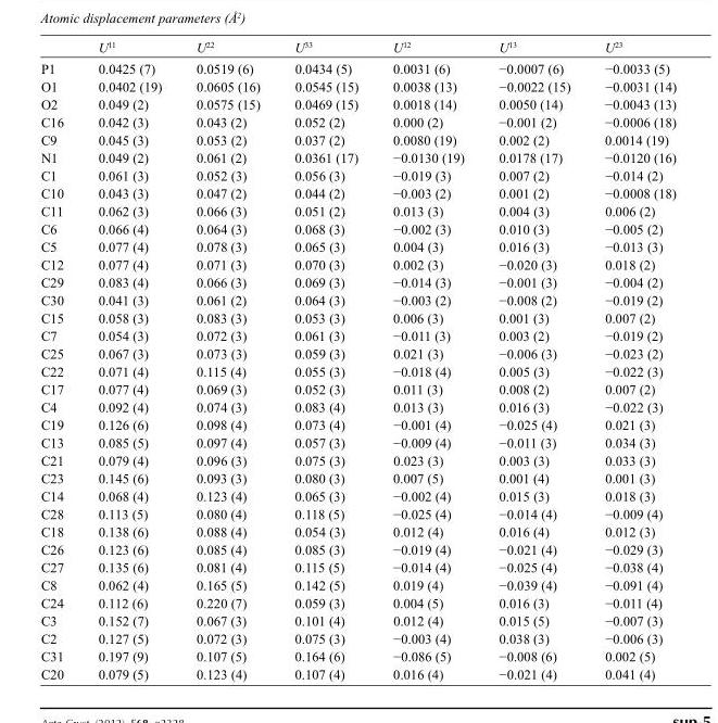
<table><thead><tr><td></td><td>U<sup>11</sup></td><td>U<sup>22</sup></td><td>U<sup>33</sup></td><td>U<sup>12</sup></td><td>U<sup>13</sup></td><td>U<sup>23</sup></td></tr></thead><tbody><tr><td>P1</td><td>0.0425 (7)</td><td>0.0519 (6)</td><td>0.0434 (5)</td><td>0.0031 (6)</td><td>−0.0007 (6)</td><td>−0.0033 (5)</td></tr><tr><td>O1</td><td>0.0402 (19)</td><td>0.0605 (16)</td><td>0.0545 (15)</td><td>0.0038 (13)</td><td>−0.0022 (15)</td><td>−0.0031 (14)</td></tr><tr><td>O2</td><td>0.049 (2)</td><td>0.0575 (15)</td><td>0.0469 (15)</td><td>0.0018 (14)</td><td>0.0050 (14)</td><td>−0.0043 (13)</td></tr><tr><td>C16</td><td>0.042 (3)</td><td>0.043 (2)</td><td>0.052 (2)</td><td>0.000 (2)</td><td>−0.001 (2)</td><td>−0.0006 (18)</td></tr><tr><td>C9</td><td>0.045 (3)</td><td>0.053 (2)</td><td>0.037 (2)</td><td>0.0080 (19)</td><td>0.002 (2)</td><td>0.0014 (19)</td></tr><tr><td>N1</td><td>0.049 (2)</td><td>0.061 (2)</td><td>0.0361 (17)</td><td>−0.0130 (19)</td><td>0.0178 (17)</td><td>−0.0120 (16)</td></tr><tr><td>C1</td><td>0.061 (3)</td><td>0.052 (3)</td><td>0.056 (3)</td><td>−0.019 (3)</td><td>0.007 (2)</td><td>−0.014 (2)</td></tr><tr><td>C10</td><td>0.043 (3)</td><td>0.047 (2)</td><td>0.044 (2)</td><td>−0.003 (2)</td><td>0.001 (2)</td><td>−0.0008 (18)</td></tr><tr><td>C11</td><td>0.062 (3)</td><td>0.066 (3)</td><td>0.051 (2)</td><td>0.013 (3)</td><td>0.004 (3)</td><td>0.006 (2)</td></tr><tr><td>C6</td><td>0.066 (4)</td><td>0.064 (3)</td><td>0.068 (3)</td><td>−0.002 (3)</td><td>0.010 (3)</td><td>−0.005 (2)</td></tr><tr><td>C5</td><td>0.077 (4)</td><td>0.078 (3)</td><td>0.065 (3)</td><td>0.004 (3)</td><td>0.016 (3)</td><td>−0.013 (3)</td></tr><tr><td>C12</td><td>0.077 (4)</td><td>0.071 (3)</td><td>0.070 (3)</td><td>0.002 (3)</td><td>−0.020 (3)</td><td>0.018 (2)</td></tr><tr><td>C29</td><td>0.083 (4)</td><td>0.066 (3)</td><td>0.069 (3)</td><td>−0.014 (3)</td><td>−0.001 (3)</td><td>−0.004 (2)</td></tr><tr><td>C30</td><td>0.041 (3)</td><td>0.061 (2)</td><td>0.064 (3)</td><td>−0.003 (2)</td><td>−0.008 (2)</td><td>−0.019 (2)</td></tr><tr><td>C15</td><td>0.058 (3)</td><td>0.083 (3)</td><td>0.053 (3)</td><td>0.006 (3)</td><td>0.001 (3)</td><td>0.007 (2)</td></tr><tr><td>C7</td><td>0.054 (3)</td><td>0.072 (3)</td><td>0.061 (3)</td><td>−0.011 (3)</td><td>0.003 (2)</td><td>−0.019 (2)</td></tr><tr><td>C25</td><td>0.067 (3)</td><td>0.073 (3)</td><td>0.059 (3)</td><td>0.021 (3)</td><td>−0.006 (3)</td><td>−0.023 (2)</td></tr><tr><td>C22</td><td>0.071 (4)</td><td>0.115 (4)</td><td>0.055 (3)</td><td>−0.018 (4)</td><td>0.005 (3)</td><td>−0.022 (3)</td></tr><tr><td>C17</td><td>0.077 (4)</td><td>0.069 (3)</td><td>0.052 (3)</td><td>0.011 (3)</td><td>0.008 (2)</td><td>0.007 (2)</td></tr><tr><td>C4</td><td>0.092 (4)</td><td>0.074 (3)</td><td>0.083 (4)</td><td>0.013 (3)</td><td>0.016 (3)</td><td>−0.022 (3)</td></tr><tr><td>C19</td><td>0.126 (6)</td><td>0.098 (4)</td><td>0.073 (4)</td><td>−0.001 (4)</td><td>−0.025 (4)</td><td>0.021 (3)</td></tr><tr><td>C13</td><td>0.085 (5)</td><td>0.097 (4)</td><td>0.057 (3)</td><td>−0.009 (4)</td><td>−0.011 (3)</td><td>0.034 (3)</td></tr><tr><td>C21</td><td>0.079 (4)</td><td>0.096 (3)</td><td>0.075 (3)</td><td>0.023 (3)</td><td>0.003 (3)</td><td>0.033 (3)</td></tr><tr><td>C23</td><td>0.145 (6)</td><td>0.093 (3)</td><td>0.080 (3)</td><td>0.007 (5)</td><td>0.001 (4)</td><td>0.001 (3)</td></tr><tr><td>C14</td><td>0.068 (4)</td><td>0.123 (4)</td><td>0.065 (3)</td><td>−0.002 (4)</td><td>0.015 (3)</td><td>0.018 (3)</td></tr><tr><td>C28</td><td>0.113 (5)</td><td>0.080 (4)</td><td>0.118 (5)</td><td>−0.025 (4)</td><td>−0.014 (4)</td><td>−0.009 (4)</td></tr><tr><td>C18</td><td>0.138 (6)</td><td>0.088 (4)</td><td>0.054 (3)</td><td>0.012 (4)</td><td>0.016 (4)</td><td>0.012 (3)</td></tr><tr><td>C26</td><td>0.123 (6)</td><td>0.085 (4)</td><td>0.085 (3)</td><td>−0.019 (4)</td><td>−0.021 (4)</td><td>−0.029 (3)</td></tr><tr><td>C27</td><td>0.135 (6)</td><td>0.081 (4)</td><td>0.115 (5)</td><td>−0.014 (4)</td><td>−0.025 (4)</td><td>−0.038 (4)</td></tr><tr><td>C8</td><td>0.062 (4)</td><td>0.165 (5)</td><td>0.142 (5)</td><td>0.019 (4)</td><td>−0.039 (4)</td><td>−0.091 (4)</td></tr><tr><td>C24</td><td>0.112 (6)</td><td>0.220 (7)</td><td>0.059 (3)</td><td>0.004 (5)</td><td>0.016 (3)</td><td>−0.011 (4)</td></tr><tr><td>C3</td><td>0.152 (7)</td><td>0.067 (3)</td><td>0.101 (4)</td><td>0.012 (4)</td><td>0.015 (5)</td><td>−0.007 (3)</td></tr><tr><td>C2</td><td>0.127 (5)</td><td>0.072 (3)</td><td>0.075 (3)</td><td>−0.003 (4)</td><td>0.038 (3)</td><td>−0.006 (3)</td></tr><tr><td>C31</td><td>0.197 (9)</td><td>0.107 (5)</td><td>0.164 (6)</td><td>−0.086 (5)</td><td>−0.008 (6)</td><td>0.002 (5)</td></tr><tr><td>C20</td><td>0.079 (5)</td><td>0.123 (4)</td><td>0.107 (4)</td><td>0.016 (4)</td><td>−0.021 (4)</td><td>0.041 (4)</td></tr></tbody></table>